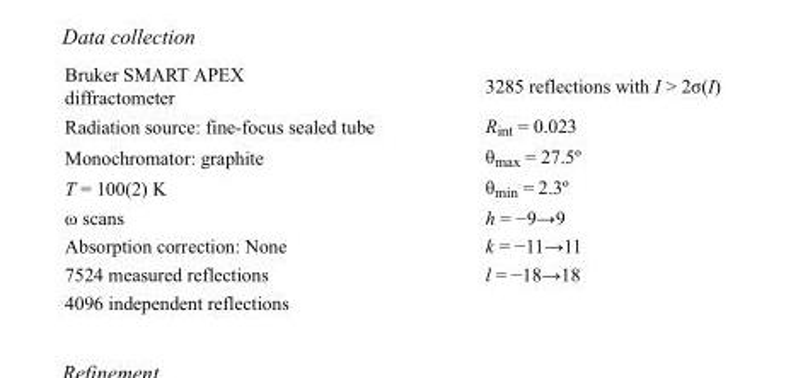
<table><tbody><tr><td>Bruker SMART APEX diffractometer</td><td>3285 reflections with I &gt; 2σ(I)</td></tr><tr><td>Radiation source: fine-focus sealed tube</td><td>R<sub>int</sub> = 0.023</td></tr><tr><td>Monochromator: graphite</td><td>θ<sub>max</sub> = 27.5º</td></tr><tr><td>T = 100(2) K</td><td>θ<sub>min</sub> = 2.3º</td></tr><tr><td>ω scans</td><td>h = −9→9</td></tr><tr><td>Absorption correction: None</td><td>k = −11→11</td></tr><tr><td>7524 measured reflections</td><td>l = −18→18</td></tr><tr><td>4096 independent reflections</td><td></td></tr></tbody></table>